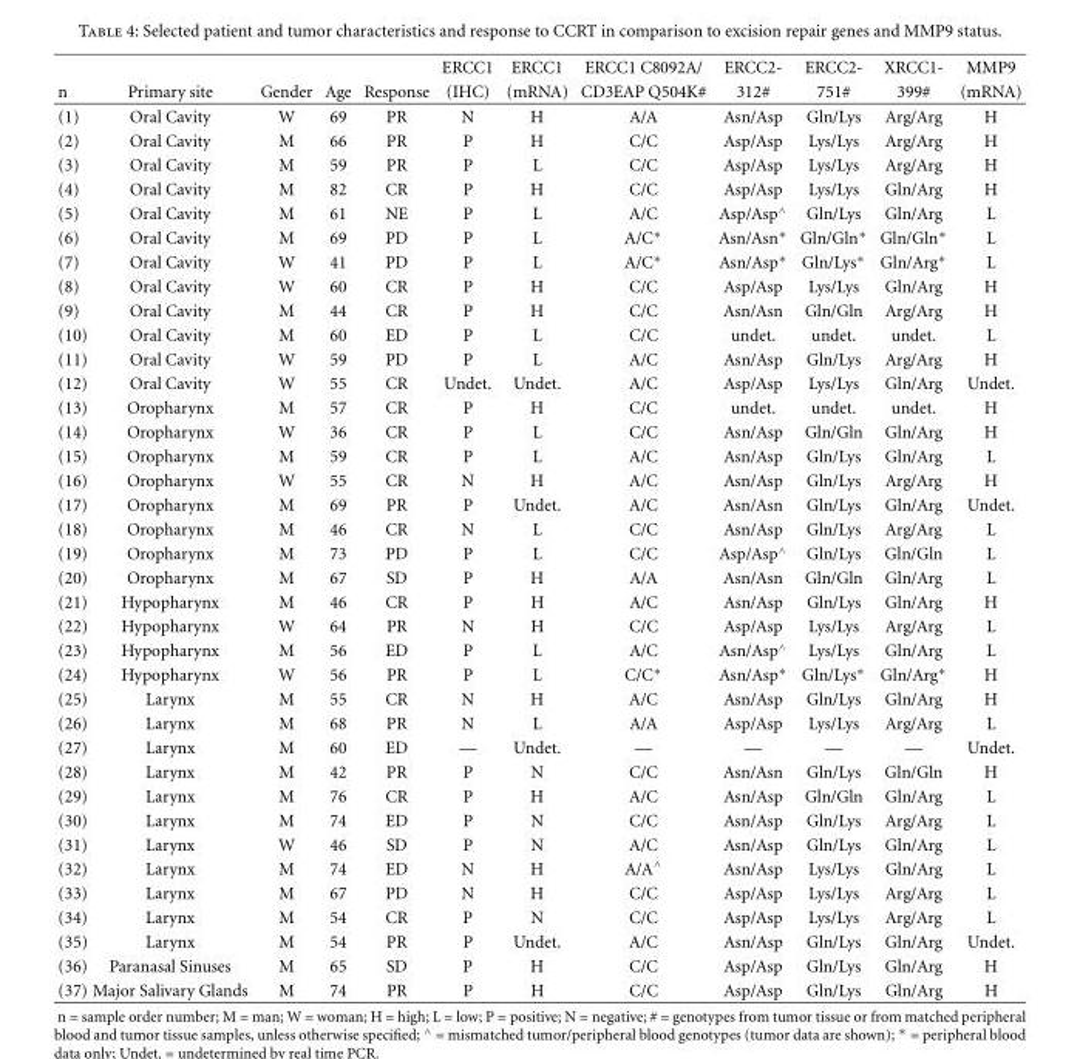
<table><thead><tr><td rowspan="2">n</td><td rowspan="2">Primary site</td><td rowspan="2">Gender</td><td rowspan="2">Age</td><td rowspan="2">Response</td><td rowspan="2">ERCC1 (IHC)</td><td rowspan="2">ERCC1 (mRNA)</td><td rowspan="2">ERCC1 C8092A/ CD3EAP Q504K#</td><td rowspan="2">ERCC2- 312#</td><td rowspan="2">ERCC2- 751#</td><td rowspan="2">XRCC1- 399#</td><td rowspan="2">MMP9 (mRNA)</td></tr><tr></tr></thead><tbody><tr><td>(1)</td><td>Oral Cavity</td><td>W</td><td>69</td><td>PR</td><td>N</td><td>H</td><td>A/A</td><td>Asn/Asp</td><td>Gln/Lys</td><td>Arg/Arg</td><td>H</td></tr><tr><td>(2)</td><td>Oral Cavity</td><td>M</td><td>66</td><td>PR</td><td>P</td><td>H</td><td>C/C</td><td>Asp/Asp</td><td>Lys/Lys</td><td>Arg/Arg</td><td>H</td></tr><tr><td>(3)</td><td>Oral Cavity</td><td>M</td><td>59</td><td>PR</td><td>P</td><td>L</td><td>C/C</td><td>Asp/Asp</td><td>Lys/Lys</td><td>Arg/Arg</td><td>H</td></tr><tr><td>(4)</td><td>Oral Cavity</td><td>M</td><td>82</td><td>CR</td><td>P</td><td>H</td><td>C/C</td><td>Asp/Asp</td><td>Lys/Lys</td><td>Gln/Arg</td><td>H</td></tr><tr><td>(5)</td><td>Oral Cavity</td><td>M</td><td>61</td><td>NE</td><td>P</td><td>L</td><td>A/C</td><td>Asp/Asp∧</td><td>Gln/Lys</td><td>Gln/Arg</td><td>L</td></tr><tr><td>(6)</td><td>Oral Cavity</td><td>M</td><td>69</td><td>PD</td><td>P</td><td>L</td><td>A/C∗</td><td>Asn/Asn∗</td><td>Gln/Gln∗</td><td>Gln/Gln∗</td><td>L</td></tr><tr><td>(7)</td><td>Oral Cavity</td><td>W</td><td>41</td><td>PD</td><td>P</td><td>L</td><td>A/C∗</td><td>Asn/Asp∗</td><td>Gln/Lys∗</td><td>Gln/Arg∗</td><td>L</td></tr><tr><td>(8)</td><td>Oral Cavity</td><td>W</td><td>60</td><td>CR</td><td>P</td><td>H</td><td>C/C</td><td>Asp/Asp</td><td>Lys/Lys</td><td>Gln/Arg</td><td>H</td></tr><tr><td>(9)</td><td>Oral Cavity</td><td>M</td><td>44</td><td>CR</td><td>P</td><td>H</td><td>C/C</td><td>Asn/Asn</td><td>Gln/Gln</td><td>Arg/Arg</td><td>H</td></tr><tr><td>(10)</td><td>Oral Cavity</td><td>M</td><td>60</td><td>ED</td><td>P</td><td>L</td><td>C/C</td><td>undet.</td><td>undet.</td><td>undet.</td><td>L</td></tr><tr><td>(11)</td><td>Oral Cavity</td><td>W</td><td>59</td><td>PD</td><td>P</td><td>L</td><td>A/C</td><td>Asn/Asp</td><td>Gln/Lys</td><td>Arg/Arg</td><td>H</td></tr><tr><td>(12)</td><td>Oral Cavity</td><td>W</td><td>55</td><td>CR</td><td>Undet.</td><td>Undet.</td><td>A/C</td><td>Asp/Asp</td><td>Lys/Lys</td><td>Gln/Arg</td><td>Undet.</td></tr><tr><td>(13)</td><td>Oropharynx</td><td>M</td><td>57</td><td>CR</td><td>P</td><td>H</td><td>C/C</td><td>undet.</td><td>undet.</td><td>undet.</td><td>H</td></tr><tr><td>(14)</td><td>Oropharynx</td><td>W</td><td>36</td><td>CR</td><td>P</td><td>L</td><td>C/C</td><td>Asn/Asp</td><td>Gln/Gln</td><td>Gln/Arg</td><td>H</td></tr><tr><td>(15)</td><td>Oropharynx</td><td>M</td><td>59</td><td>CR</td><td>P</td><td>L</td><td>A/C</td><td>Asn/Asp</td><td>Gln/Lys</td><td>Gln/Arg</td><td>L</td></tr><tr><td>(16)</td><td>Oropharynx</td><td>W</td><td>55</td><td>CR</td><td>N</td><td>H</td><td>A/C</td><td>Asn/Asp</td><td>Gln/Lys</td><td>Arg/Arg</td><td>H</td></tr><tr><td>(17)</td><td>Oropharynx</td><td>M</td><td>69</td><td>PR</td><td>P</td><td>Undet.</td><td>A/C</td><td>Asn/Asn</td><td>Gln/Lys</td><td>Gln/Arg</td><td>Undet.</td></tr><tr><td>(18)</td><td>Oropharynx</td><td>M</td><td>46</td><td>CR</td><td>N</td><td>L</td><td>C/C</td><td>Asn/Asp</td><td>Gln/Lys</td><td>Arg/Arg</td><td>L</td></tr><tr><td>(19)</td><td>Oropharynx</td><td>M</td><td>73</td><td>PD</td><td>P</td><td>L</td><td>C/C</td><td>Asp/Asp∧</td><td>Gln/Lys</td><td>Gln/Gln</td><td>L</td></tr><tr><td>(20)</td><td>Oropharynx</td><td>M</td><td>67</td><td>SD</td><td>P</td><td>H</td><td>A/A</td><td>Asn/Asn</td><td>Gln/Gln</td><td>Gln/Arg</td><td>L</td></tr><tr><td>(21)</td><td>Hypopharynx</td><td>M</td><td>46</td><td>CR</td><td>P</td><td>H</td><td>A/C</td><td>Asn/Asp</td><td>Gln/Lys</td><td>Gln/Arg</td><td>H</td></tr><tr><td>(22)</td><td>Hypopharynx</td><td>W</td><td>64</td><td>PR</td><td>N</td><td>H</td><td>C/C</td><td>Asp/Asp</td><td>Lys/Lys</td><td>Arg/Arg</td><td>L</td></tr><tr><td>(23)</td><td>Hypopharynx</td><td>M</td><td>56</td><td>ED</td><td>P</td><td>L</td><td>A/C</td><td>Asn/Asp∧</td><td>Lys/Lys</td><td>Gln/Arg</td><td>L</td></tr><tr><td>(24)</td><td>Hypopharynx</td><td>W</td><td>56</td><td>PR</td><td>P</td><td>L</td><td>C/C∗</td><td>Asn/Asp∗</td><td>Gln/Lys∗</td><td>Gln/Arg∗</td><td>H</td></tr><tr><td>(25)</td><td>Larynx</td><td>M</td><td>55</td><td>CR</td><td>N</td><td>H</td><td>A/C</td><td>Asn/Asp</td><td>Gln/Lys</td><td>Gln/Arg</td><td>H</td></tr><tr><td>(26)</td><td>Larynx</td><td>M</td><td>68</td><td>PR</td><td>N</td><td>L</td><td>A/A</td><td>Asp/Asp</td><td>Lys/Lys</td><td>Arg/Arg</td><td>L</td></tr><tr><td>(27)</td><td>Larynx</td><td>M</td><td>60</td><td>ED</td><td>—</td><td>Undet.</td><td>—</td><td>—</td><td>—</td><td>—</td><td>Undet.</td></tr><tr><td>(28)</td><td>Larynx</td><td>M</td><td>42</td><td>PR</td><td>P</td><td>N</td><td>C/C</td><td>Asn/Asn</td><td>Gln/Lys</td><td>Gln/Gln</td><td>H</td></tr><tr><td>(29)</td><td>Larynx</td><td>M</td><td>76</td><td>CR</td><td>P</td><td>H</td><td>A/C</td><td>Asn/Asp</td><td>Gln/Gln</td><td>Gln/Arg</td><td>L</td></tr><tr><td>(30)</td><td>Larynx</td><td>M</td><td>74</td><td>ED</td><td>P</td><td>N</td><td>C/C</td><td>Asn/Asp</td><td>Gln/Lys</td><td>Arg/Arg</td><td>L</td></tr><tr><td>(31)</td><td>Larynx</td><td>W</td><td>46</td><td>SD</td><td>P</td><td>N</td><td>A/C</td><td>Asn/Asp</td><td>Gln/Lys</td><td>Gln/Arg</td><td>L</td></tr><tr><td>(32)</td><td>Larynx</td><td>M</td><td>74</td><td>ED</td><td>N</td><td>H</td><td>A/A∧</td><td>Asn/Asp</td><td>Lys/Lys</td><td>Gln/Arg</td><td>L</td></tr><tr><td>(33)</td><td>Larynx</td><td>M</td><td>67</td><td>PD</td><td>N</td><td>H</td><td>C/C</td><td>Asp/Asp</td><td>Lys/Lys</td><td>Arg/Arg</td><td>L</td></tr><tr><td>(34)</td><td>Larynx</td><td>M</td><td>54</td><td>CR</td><td>P</td><td>N</td><td>C/C</td><td>Asp/Asp</td><td>Lys/Lys</td><td>Arg/Arg</td><td>L</td></tr><tr><td>(35)</td><td>Larynx</td><td>M</td><td>54</td><td>PR</td><td>P</td><td>Undet.</td><td>A/C</td><td>Asn/Asp</td><td>Gln/Lys</td><td>Gln/Arg</td><td>Undet.</td></tr><tr><td>(36)</td><td>Paranasal Sinuses</td><td>M</td><td>65</td><td>SD</td><td>P</td><td>H</td><td>C/C</td><td>Asp/Asp</td><td>Gln/Lys</td><td>Gln/Arg</td><td>H</td></tr><tr><td>(37)</td><td>Major Salivary Glands</td><td>M</td><td>74</td><td>PR</td><td>P</td><td>H</td><td>C/C</td><td>Asp/Asp</td><td>Gln/Lys</td><td>Gln/Arg</td><td>H</td></tr></tbody></table>